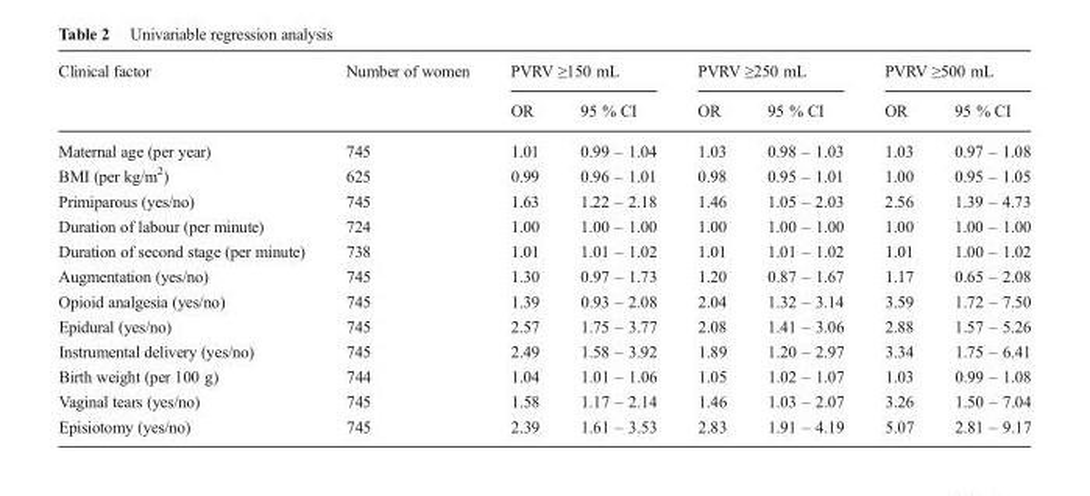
<table><thead><tr><td rowspan="2">Clinical factor</td><td rowspan="2">Number of women</td><td colspan="2">PVRV ≥150 mL</td><td colspan="2">PVRV ≥250 mL</td><td colspan="2">PVRV ≥500 mL</td></tr><tr><td>OR</td><td>95 % CI</td><td>OR</td><td>95 % CI</td><td>OR</td><td>95 % CI</td></tr></thead><tbody><tr><td>Maternal age (per year)</td><td>745</td><td>1.01</td><td>0.99 – 1.04</td><td>1.03</td><td>0.98 – 1.03</td><td>1.03</td><td>0.97 – 1.08</td></tr><tr><td>BMI (per kg/m<sup>2</sup>)</td><td>625</td><td>0.99</td><td>0.96 – 1.01</td><td>0.98</td><td>0.95 – 1.01</td><td>1.00</td><td>0.95 – 1.05</td></tr><tr><td>Primiparous (yes/no)</td><td>745</td><td>1.63</td><td>1.22 – 2.18</td><td>1.46</td><td>1.05 – 2.03</td><td>2.56</td><td>1.39 – 4.73</td></tr><tr><td>Duration of labour (per minute)</td><td>724</td><td>1.00</td><td>1.00 – 1.00</td><td>1.00</td><td>1.00 – 1.00</td><td>1.00</td><td>1.00 – 1.00</td></tr><tr><td>Duration of second stage (per minute)</td><td>738</td><td>1.01</td><td>1.01 – 1.02</td><td>1.01</td><td>1.01 – 1.02</td><td>1.01</td><td>1.00 – 1.02</td></tr><tr><td>Augmentation (yes/no)</td><td>745</td><td>1.30</td><td>0.97 – 1.73</td><td>1.20</td><td>0.87 – 1.67</td><td>1.17</td><td>0.65 – 2.08</td></tr><tr><td>Opioid analgesia (yes/no)</td><td>745</td><td>1.39</td><td>0.93 – 2.08</td><td>2.04</td><td>1.32 – 3.14</td><td>3.59</td><td>1.72 – 7.50</td></tr><tr><td>Epidural (yes/no)</td><td>745</td><td>2.57</td><td>1.75 – 3.77</td><td>2.08</td><td>1.41 – 3.06</td><td>2.88</td><td>1.57 – 5.26</td></tr><tr><td>Instrumental delivery (yes/no)</td><td>745</td><td>2.49</td><td>1.58 – 3.92</td><td>1.89</td><td>1.20 – 2.97</td><td>3.34</td><td>1.75 – 6.41</td></tr><tr><td>Birth weight (per 100 g)</td><td>744</td><td>1.04</td><td>1.01 – 1.06</td><td>1.05</td><td>1.02 – 1.07</td><td>1.03</td><td>0.99 – 1.08</td></tr><tr><td>Vaginal tears (yes/no)</td><td>745</td><td>1.58</td><td>1.17 – 2.14</td><td>1.46</td><td>1.03 – 2.07</td><td>3.26</td><td>1.50 – 7.04</td></tr><tr><td>Episiotomy (yes/no)</td><td>745</td><td>2.39</td><td>1.61 – 3.53</td><td>2.83</td><td>1.91 – 4.19</td><td>5.07</td><td>2.81 – 9.17</td></tr></tbody></table>